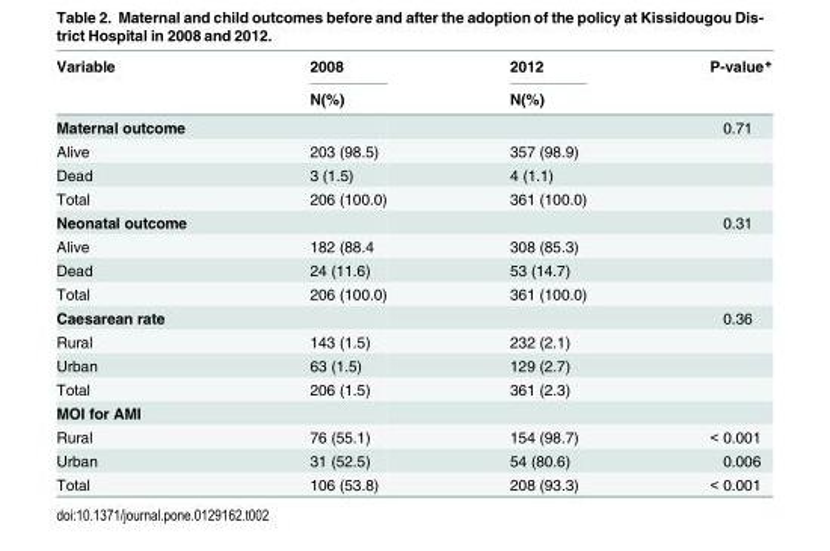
<table><thead><tr><td rowspan="2">Variable</td><td rowspan="2">2008 N(%)</td><td rowspan="2">2012 N(%)</td><td rowspan="2">P-value*</td></tr><tr></tr></thead><tbody><tr><td>Maternal outcome</td><td></td><td></td><td>0.71</td></tr><tr><td>Alive</td><td>203 (98.5)</td><td>357 (98.9)</td><td></td></tr><tr><td>Dead</td><td>3 (1.5)</td><td>4 (1.1)</td><td></td></tr><tr><td>Total</td><td>206 (100.0)</td><td>361 (100.0)</td><td></td></tr><tr><td>Neonatal outcome</td><td></td><td></td><td>0.31</td></tr><tr><td>Alive</td><td>182 (88.4</td><td>308 (85.3)</td><td></td></tr><tr><td>Dead</td><td>24 (11.6)</td><td>53 (14.7)</td><td></td></tr><tr><td>Total</td><td>206 (100.0)</td><td>361 (100.0)</td><td></td></tr><tr><td>Caesarean rate</td><td></td><td></td><td>0.36</td></tr><tr><td>Rural</td><td>143 (1.5)</td><td>232 (2.1)</td><td></td></tr><tr><td>Urban</td><td>63 (1.5)</td><td>129 (2.7)</td><td></td></tr><tr><td>Total</td><td>206 (1.5)</td><td>361 (2.3)</td><td></td></tr><tr><td colspan="4">MOI for AMI</td></tr><tr><td>Rural</td><td>76 (55.1)</td><td>154 (98.7)</td><td>&lt; 0.001</td></tr><tr><td>Urban</td><td>31 (52.5)</td><td>54 (80.6)</td><td>0.006</td></tr><tr><td>Total</td><td>106 (53.8)</td><td>208 (93.3)</td><td>&lt; 0.001</td></tr></tbody></table>